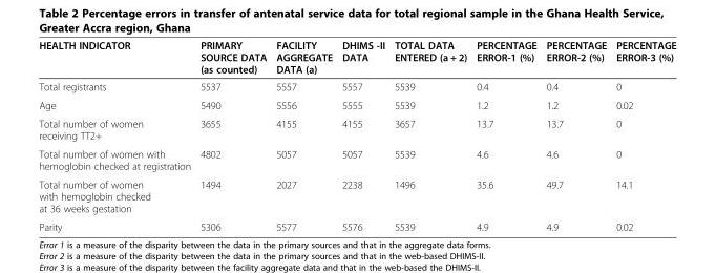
<table><thead><tr><td>HEALTH INDICATOR</td><td>PRIMARY SOURCE DATA (as counted)</td><td>FACILITY AGGREGATE DATA (a)</td><td>DHIMS -II DATA</td><td>TOTAL DATA ENTERED (a + 2)</td><td>PERCENTAGE ERROR-1 (%)</td><td>PERCENTAGE ERROR-2 (%)</td><td>PERCENTAGE ERROR-3 (%)</td></tr></thead><tbody><tr><td>Total registrants</td><td>5537</td><td>5557</td><td>5557</td><td>5539</td><td>0.4</td><td>0.4</td><td>0</td></tr><tr><td>Age</td><td>5490</td><td>5556</td><td>5555</td><td>5539</td><td>1.2</td><td>1.2</td><td>0.02</td></tr><tr><td>Total number of women receiving TT2+</td><td>3655</td><td>4155</td><td>4155</td><td>3657</td><td>13.7</td><td>13.7</td><td>0</td></tr><tr><td>Total number of women with hemoglobin checked at registration</td><td>4802</td><td>5057</td><td>5057</td><td>5539</td><td>4.6</td><td>4.6</td><td>0</td></tr><tr><td>Total number of women with hemoglobin checked at 36 weeks gestation</td><td>1494</td><td>2027</td><td>2238</td><td>1496</td><td>35.6</td><td>49.7</td><td>14.1</td></tr><tr><td>Parity</td><td>5306</td><td>5577</td><td>5576</td><td>5539</td><td>4.9</td><td>4.9</td><td>0.02</td></tr></tbody></table>